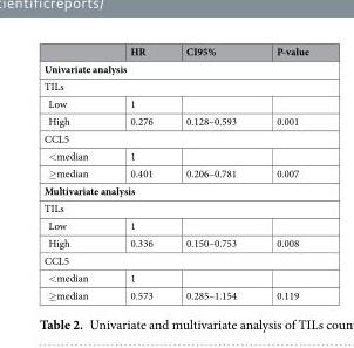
<table><thead><tr><td></td><td>HR</td><td>CI95%</td><td>P-value</td></tr><tr><td colspan="4">Univariate analysis</td></tr></thead><tbody><tr><td colspan="4">TILs</td></tr><tr><td>Low</td><td>1</td><td></td><td></td></tr><tr><td>High</td><td>0.276</td><td>0.128–0.593</td><td>0.001</td></tr><tr><td colspan="4">CCL5</td></tr><tr><td>&lt;median</td><td>1</td><td></td><td></td></tr><tr><td>≥median</td><td>0.401</td><td>0.206–0.781</td><td>0.007</td></tr><tr><td colspan="4">Multivariate analysis</td></tr><tr><td colspan="4">TILs</td></tr><tr><td>Low</td><td>1</td><td></td><td></td></tr><tr><td>High</td><td>0.336</td><td>0.150–0.753</td><td>0.008</td></tr><tr><td colspan="4">CCL5</td></tr><tr><td>&lt;median</td><td>1</td><td></td><td></td></tr><tr><td>≥median</td><td>0.573</td><td>0.285–1.154</td><td>0.119</td></tr></tbody></table>